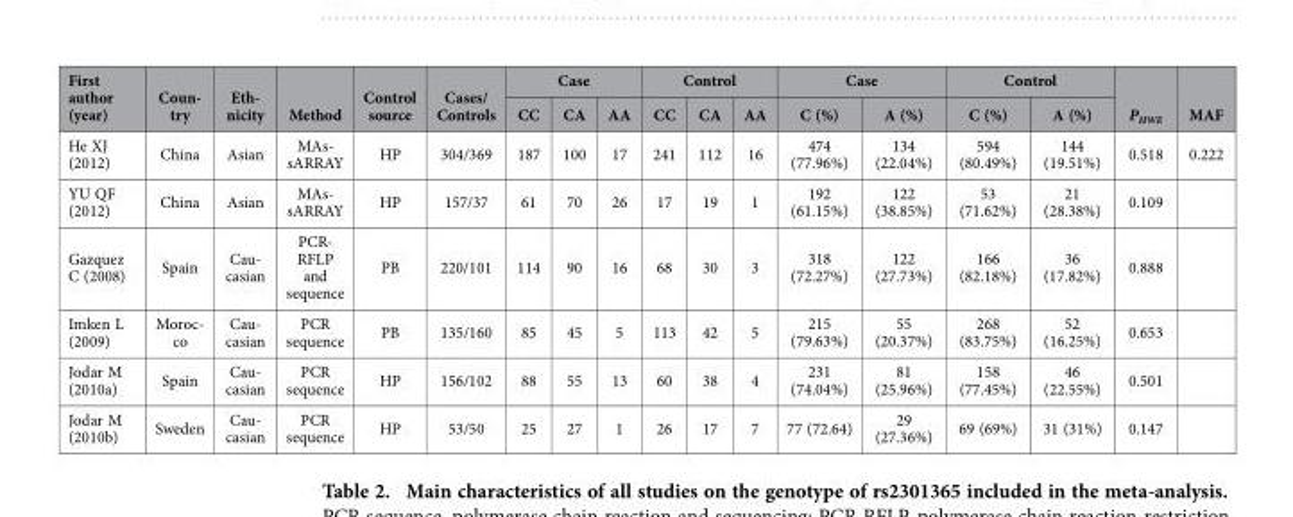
<table><thead><tr><td rowspan="2">First author (year)</td><td rowspan="2">Coun- try</td><td rowspan="2">Eth- nicity</td><td rowspan="2">Method</td><td rowspan="2">Control source</td><td rowspan="2">Cases/ Controls</td><td colspan="3">Case</td><td colspan="3">Control</td><td colspan="2">Case</td><td colspan="2">Control</td><td rowspan="2">P<sub>HWE</sub></td><td rowspan="2">MAF</td></tr><tr><td>CC</td><td>CA</td><td>AA</td><td>CC</td><td>CA</td><td>AA</td><td>C (%)</td><td>A (%)</td><td>C (%)</td><td>A (%)</td></tr></thead><tbody><tr><td>He XJ (2012)</td><td>China</td><td>Asian</td><td>MAs- sARRAY</td><td>HP</td><td>304/369</td><td>187</td><td>100</td><td>17</td><td>241</td><td>112</td><td>16</td><td>474 (77.96%)</td><td>134 (22.04%)</td><td>594 (80.49%)</td><td>144 (19.51%)</td><td>0.518</td><td>0.222</td></tr><tr><td>YU QF (2012)</td><td>China</td><td>Asian</td><td>MAs- sARRAY</td><td>HP</td><td>157/37</td><td>61</td><td>70</td><td>26</td><td>17</td><td>19</td><td>1</td><td>192 (61.15%)</td><td>122 (38.85%)</td><td>53 (71.62%)</td><td>21 (28.38%)</td><td>0.109</td><td></td></tr><tr><td>Gazquez C (2008)</td><td>Spain</td><td>Cau- casian</td><td>PCR- RFLP and sequence</td><td>PB</td><td>220/101</td><td>114</td><td>90</td><td>16</td><td>68</td><td>30</td><td>3</td><td>318 (72.27%)</td><td>122 (27.73%)</td><td>166 (82.18%)</td><td>36 (17.82%)</td><td>0.888</td><td></td></tr><tr><td>Imken L (2009)</td><td>Moroc- co</td><td>Cau- casian</td><td>PCR sequence</td><td>PB</td><td>135/160</td><td>85</td><td>45</td><td>5</td><td>113</td><td>42</td><td>5</td><td>215 (79.63%)</td><td>55 (20.37%)</td><td>268 (83.75%)</td><td>52 (16.25%)</td><td>0.653</td><td></td></tr><tr><td>Jodar M (2010a)</td><td>Spain</td><td>Cau- casian</td><td>PCR sequence</td><td>HP</td><td>156/102</td><td>88</td><td>55</td><td>13</td><td>60</td><td>38</td><td>4</td><td>231 (74.04%)</td><td>81 (25.96%)</td><td>158 (77.45%)</td><td>46 (22.55%)</td><td>0.501</td><td></td></tr><tr><td>Jodar M (2010b)</td><td>Sweden</td><td>Cau- casian</td><td>PCR sequence</td><td>HP</td><td>53/50</td><td>25</td><td>27</td><td>1</td><td>26</td><td>17</td><td>7</td><td>77 (72.64)</td><td>29 (27.36%)</td><td>69 (69%)</td><td>31 (31%)</td><td>0.147</td><td></td></tr></tbody></table>